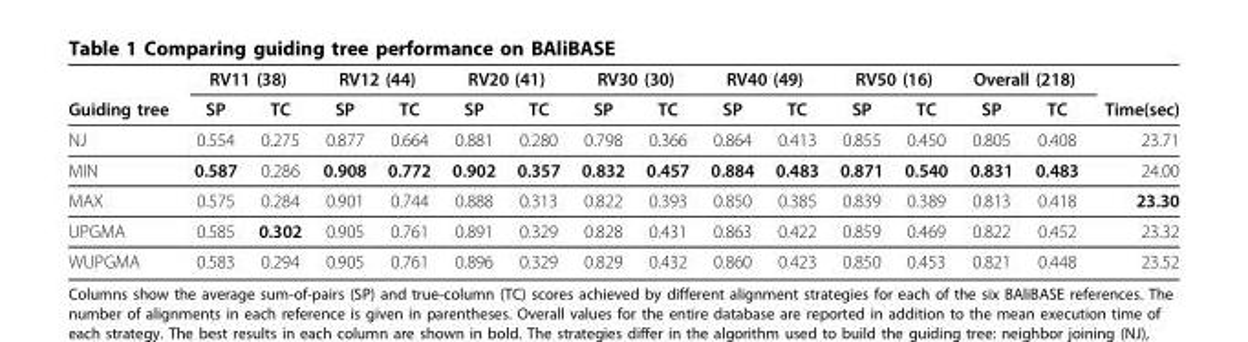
<table><thead><tr><td rowspan="2">Guiding tree</td><td colspan="2">RV11 (38)</td><td colspan="2">RV12 (44)</td><td colspan="2">RV20 (41)</td><td colspan="2">RV30 (30)</td><td colspan="2">RV40 (49)</td><td colspan="2">RV50 (16)</td><td colspan="2">Overall (218)</td><td rowspan="2">Time(sec)</td></tr><tr><td>SP</td><td>TC</td><td>SP</td><td>TC</td><td>SP</td><td>TC</td><td>SP</td><td>TC</td><td>SP</td><td>TC</td><td>SP</td><td>TC</td><td>SP</td><td>TC</td></tr></thead><tbody><tr><td>NJ</td><td>0.554</td><td>0.275</td><td>0.877</td><td>0.664</td><td>0.881</td><td>0.280</td><td>0.798</td><td>0.366</td><td>0.864</td><td>0.413</td><td>0.855</td><td>0.450</td><td>0.805</td><td>0.408</td><td>23.71</td></tr><tr><td>MIN</td><td>0.587</td><td>0.286</td><td>0.908</td><td>0.772</td><td>0.902</td><td>0.357</td><td>0.832</td><td>0.457</td><td>0.884</td><td>0.483</td><td>0.871</td><td>0.540</td><td>0.831</td><td>0.483</td><td>24.00</td></tr><tr><td>MAX</td><td>0.575</td><td>0.284</td><td>0.901</td><td>0.744</td><td>0.888</td><td>0.313</td><td>0.822</td><td>0.393</td><td>0.850</td><td>0.385</td><td>0.839</td><td>0.389</td><td>0.813</td><td>0.418</td><td>23.30</td></tr><tr><td>UPGMA</td><td>0.585</td><td>0.302</td><td>0.905</td><td>0.761</td><td>0.891</td><td>0.329</td><td>0.828</td><td>0.431</td><td>0.863</td><td>0.422</td><td>0.859</td><td>0.469</td><td>0.822</td><td>0.452</td><td>23.32</td></tr><tr><td>WUPGMA</td><td>0.583</td><td>0.294</td><td>0.905</td><td>0.761</td><td>0.896</td><td>0.329</td><td>0.829</td><td>0.432</td><td>0.860</td><td>0.423</td><td>0.850</td><td>0.453</td><td>0.821</td><td>0.448</td><td>23.52</td></tr></tbody></table>